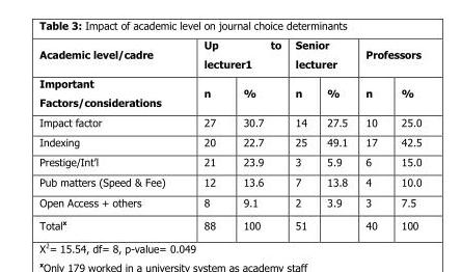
<table><thead><tr><td rowspan="2">Academic level/cadre Important Factors/considerations</td><td colspan="2">Up to lecturer1</td><td colspan="2">Senior lecturer</td><td colspan="2">Professors</td></tr><tr><td>n</td><td>%</td><td>n</td><td>%</td><td>n</td><td>%</td></tr></thead><tbody><tr><td>Impact factor</td><td>27</td><td>30.7</td><td>14</td><td>27.5</td><td>10</td><td>25.0</td></tr><tr><td>Indexing</td><td>20</td><td>22.7</td><td>25</td><td>49.1</td><td>17</td><td>42.5</td></tr><tr><td>Prestige/Int’l</td><td>21</td><td>23.9</td><td>3</td><td>5.9</td><td>6</td><td>15.0</td></tr><tr><td>Pub matters (Speed &amp; Fee)</td><td>12</td><td>13.6</td><td>7</td><td>13.8</td><td>4</td><td>10.0</td></tr><tr><td>Open Access + others</td><td>8</td><td>9.1</td><td>2</td><td>3.9</td><td>3</td><td>7.5</td></tr><tr><td>Total<sup>x</sup></td><td>88</td><td>100</td><td>51</td><td></td><td>40</td><td>100</td></tr></tbody></table>